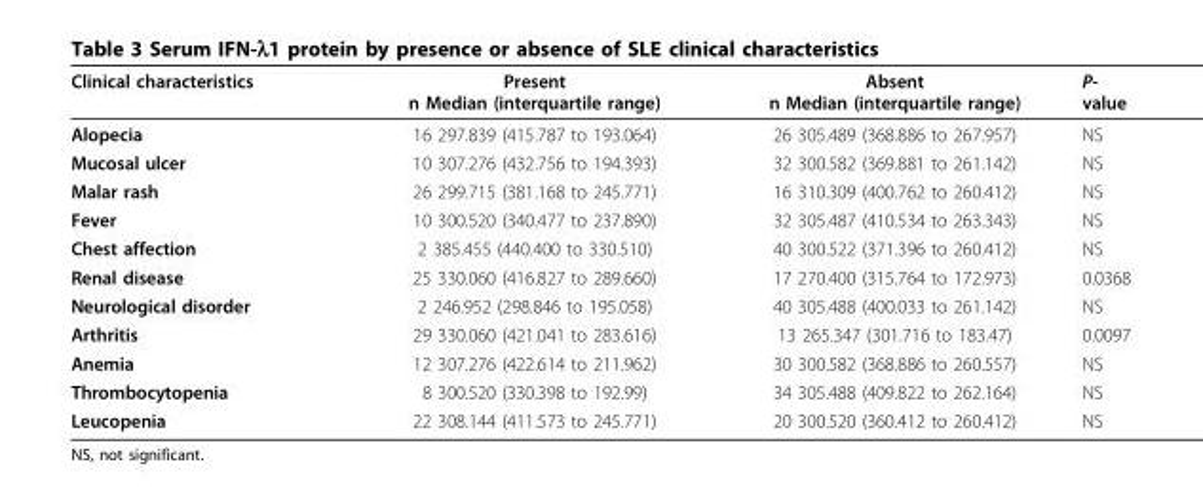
<table><thead><tr><td>Clinical characteristics</td><td>Present n Median (interquartile range)</td><td>Absent n Median (interquartile range)</td><td>P- value</td></tr></thead><tbody><tr><td>Alopecia</td><td>16 297.839 (415.787 to 193.064)</td><td>26 305.489 (368.886 to 267.957)</td><td>NS</td></tr><tr><td>Mucosal ulcer</td><td>10 307.276 (432.756 to 194.393)</td><td>32 300.582 (369.881 to 261.142)</td><td>NS</td></tr><tr><td>Malar rash</td><td>26 299.715 (381.168 to 245.771)</td><td>16 310.309 (400.762 to 260.412)</td><td>NS</td></tr><tr><td>Fever</td><td>10 300.520 (340.477 to 237.890)</td><td>32 305.487 (410.534 to 263.343)</td><td>NS</td></tr><tr><td>Chest affection</td><td>2 385.455 (440.400 to 330.510)</td><td>40 300.522 (371.396 to 260.412)</td><td>NS</td></tr><tr><td>Renal disease</td><td>25 330.060 (416.827 to 289.660)</td><td>17 270.400 (315.764 to 172.973)</td><td>0.0368</td></tr><tr><td>Neurological disorder</td><td>2 246.952 (298.846 to 195.058)</td><td>40 305.488 (400.033 to 261.142)</td><td>NS</td></tr><tr><td>Arthritis</td><td>29 330.060 (421.041 to 283.616)</td><td>13 265.347 (301.716 to 183.47)</td><td>0.0097</td></tr><tr><td>Anemia</td><td>12 307.276 (422.614 to 211.962)</td><td>30 300.582 (368.886 to 260.557)</td><td>NS</td></tr><tr><td>Thrombocytopenia</td><td>8 300.520 (330.398 to 192.99)</td><td>34 305.488 (409.822 to 262.164)</td><td>NS</td></tr><tr><td>Leucopenia</td><td>22 308.144 (411.573 to 245.771)</td><td>20 300.520 (360.412 to 260.412)</td><td>NS</td></tr></tbody></table>